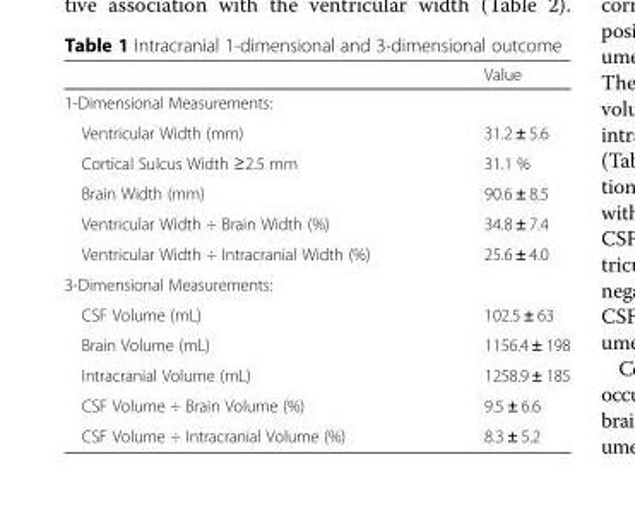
<table><thead><tr><td></td><td>Value</td></tr></thead><tbody><tr><td colspan="2">1-Dimensional Measurements:</td></tr><tr><td>Ventricular Width (mm)</td><td>31.2 ± 5.6</td></tr><tr><td>Cortical Sulcus Width ≥2.5 mm</td><td>31.1 %</td></tr><tr><td>Brain Width (mm)</td><td>90.6 ± 8.5</td></tr><tr><td>Ventricular Width ÷ Brain Width (%)</td><td>34.8 ± 7.4</td></tr><tr><td>Ventricular Width ÷ Intracranial Width (%)</td><td>25.6 ± 4.0</td></tr><tr><td colspan="2">3-Dimensional Measurements:</td></tr><tr><td>CSF Volume (mL)</td><td>102.5 ± 63</td></tr><tr><td>Brain Volume (mL)</td><td>1156.4 ± 198</td></tr><tr><td>Intracranial Volume (mL)</td><td>1258.9 ± 185</td></tr><tr><td>CSF Volume ÷ Brain Volume (%)</td><td>9.5 ± 6.6</td></tr><tr><td>CSF Volume ÷ Intracranial Volume (%)</td><td>8.3 ± 5.2</td></tr></tbody></table>